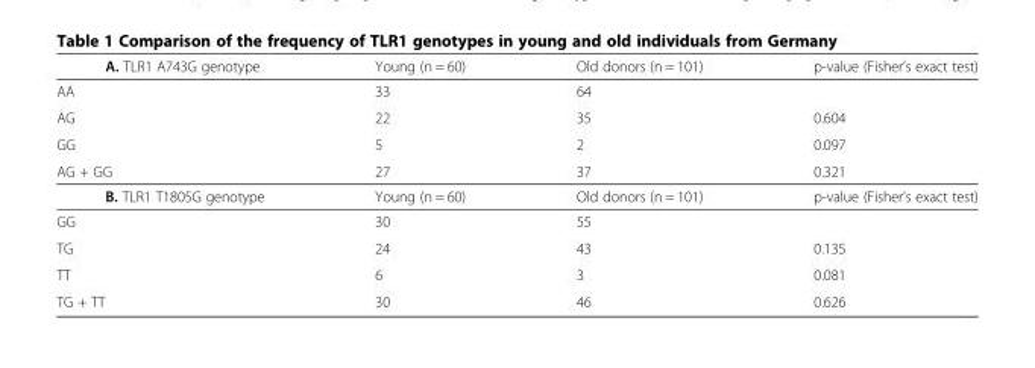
<table><tbody><tr><td>A. TLR1 A743G genotype</td><td>Young (n = 60)</td><td>Old donors (n = 101)</td><td>p-value (Fisher’s exact test)</td></tr><tr><td>AA</td><td>33</td><td>64</td><td></td></tr><tr><td>AG</td><td>22</td><td>35</td><td>0.604</td></tr><tr><td>GG</td><td>5</td><td>2</td><td>0.097</td></tr><tr><td>AG + GG</td><td>27</td><td>37</td><td>0.321</td></tr><tr><td>B. TLR1 T1805G genotype</td><td>Young (n = 60)</td><td>Old donors (n = 101)</td><td>p-value (Fisher’s exact test)</td></tr><tr><td>GG</td><td>30</td><td>55</td><td></td></tr><tr><td>TG</td><td>24</td><td>43</td><td>0.135</td></tr><tr><td>TT</td><td>6</td><td>3</td><td>0.081</td></tr><tr><td>TG + TT</td><td>30</td><td>46</td><td>0.626</td></tr></tbody></table>